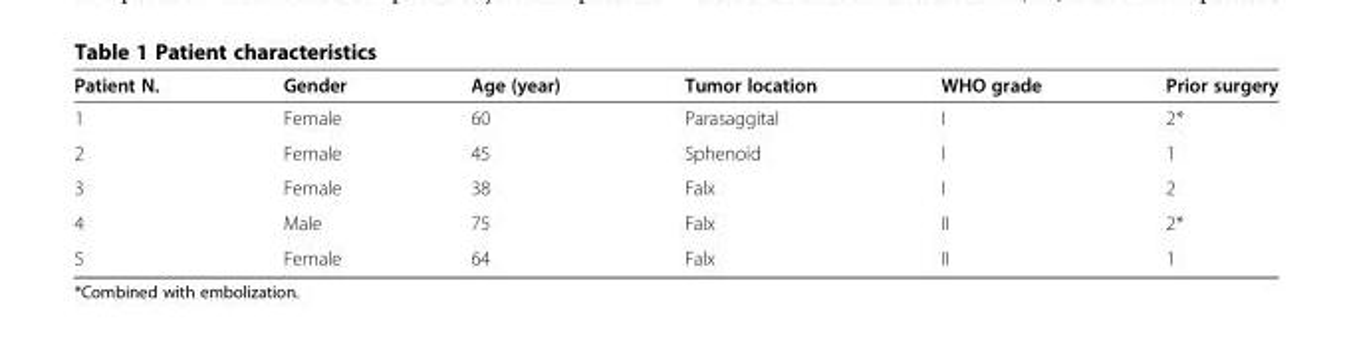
<table><thead><tr><td>Patient N.</td><td>Gender</td><td>Age (year)</td><td>Tumor location</td><td>WHO grade</td><td>Prior surgery</td></tr></thead><tbody><tr><td>1</td><td>Female</td><td>60</td><td>Parasaggital</td><td>I</td><td>2*</td></tr><tr><td>2</td><td>Female</td><td>45</td><td>Sphenoid</td><td>I</td><td>1</td></tr><tr><td>3</td><td>Female</td><td>38</td><td>Falx</td><td>I</td><td>2</td></tr><tr><td>4</td><td>Male</td><td>75</td><td>Falx</td><td>II</td><td>2*</td></tr><tr><td>5</td><td>Female</td><td>64</td><td>Falx</td><td>II</td><td>1</td></tr></tbody></table>